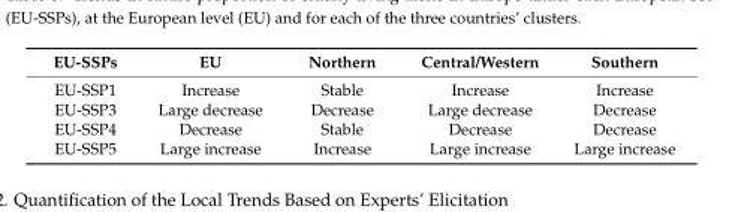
<table><thead><tr><td>EU-SSPs</td><td>EU</td><td>Northern</td><td>Central/Western</td><td>Southern</td></tr></thead><tbody><tr><td>EU-SSP1</td><td>Increase</td><td>Stable</td><td>Increase</td><td>Increase</td></tr><tr><td>EU-SSP3</td><td>Large decrease</td><td>Decrease</td><td>Large decrease</td><td>Decrease</td></tr><tr><td>EU-SSP4</td><td>Decrease</td><td>Stable</td><td>Decrease</td><td>Decrease</td></tr><tr><td>EU-SSP5</td><td>Large increase</td><td>Increase</td><td>Large increase</td><td>Large increase</td></tr></tbody></table>